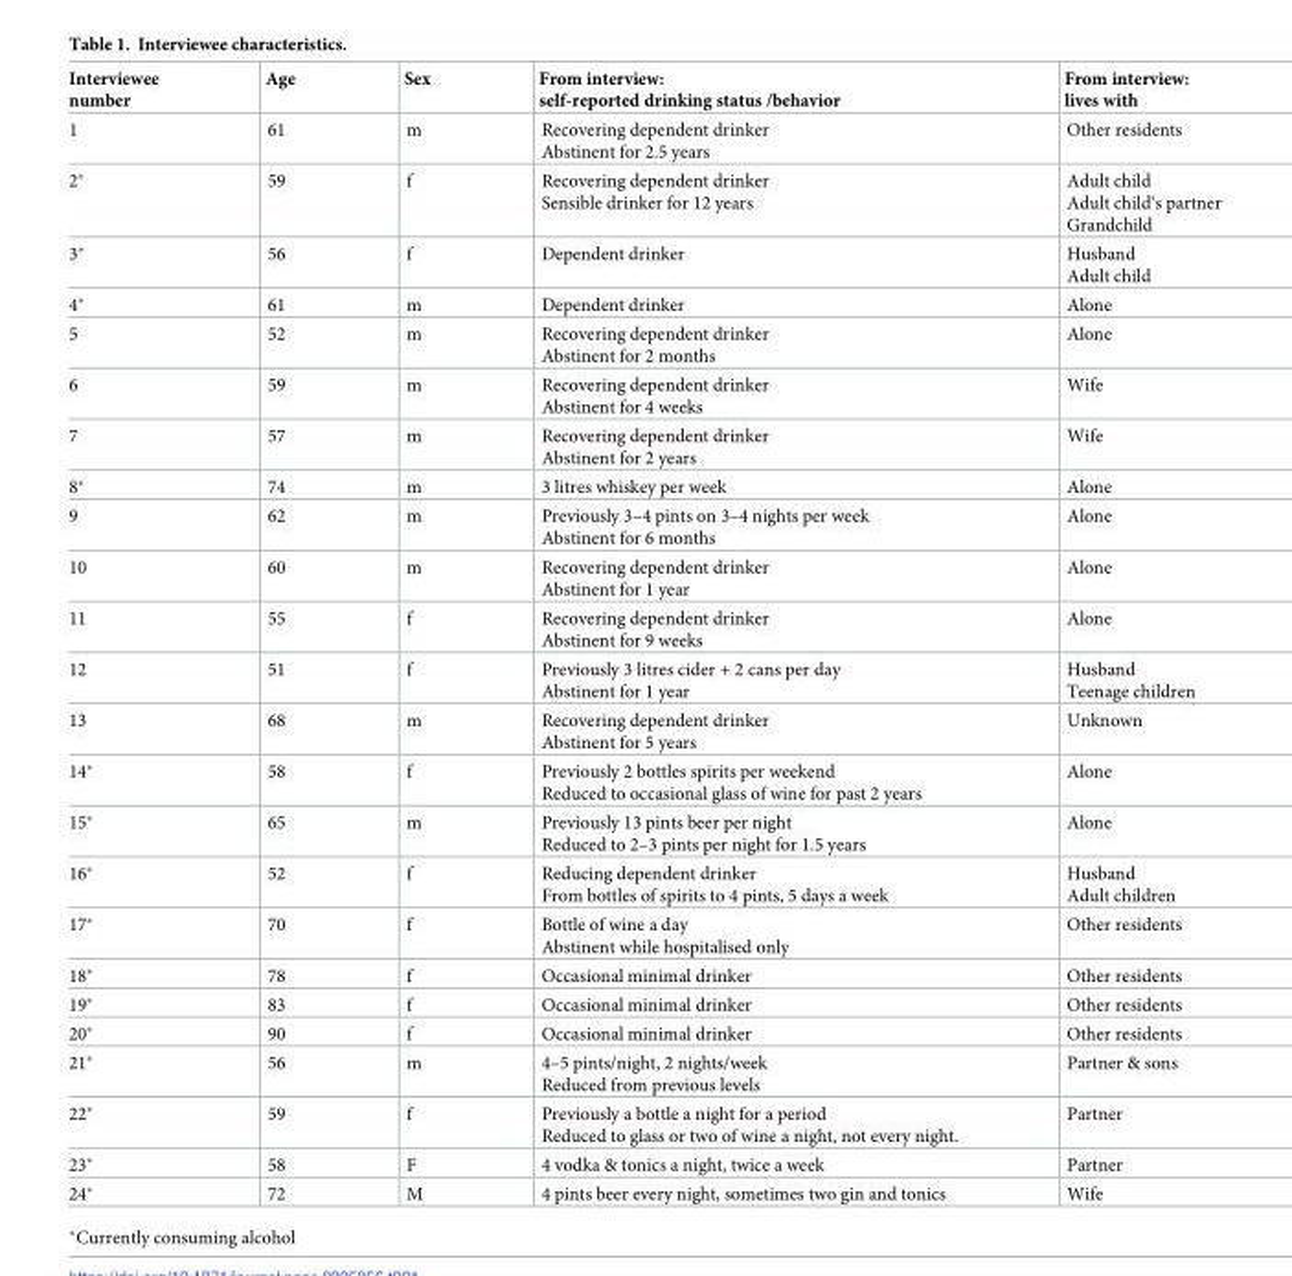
<table><thead><tr><td>Interviewee number</td><td>Age</td><td>Sex</td><td>From interview: self-reported drinking status /behavior</td><td>From interview: lives with</td></tr></thead><tbody><tr><td>1</td><td>61</td><td>m</td><td>Recovering dependent drinker Abstinent for 2.5 years</td><td>Other residents</td></tr><tr><td>2*</td><td>59</td><td>f</td><td>Recovering dependent drinker Sensible drinker for 12 years</td><td>Adult child Adult child‘s partner Grandchild</td></tr><tr><td>3*</td><td>56</td><td>f</td><td>Dependent drinker</td><td>Husband Adult child</td></tr><tr><td>4*</td><td>61</td><td>m</td><td>Dependent drinker</td><td>Alone</td></tr><tr><td>5</td><td>52</td><td>m</td><td>Recovering dependent drinker Abstinent for 2 months</td><td>Alone</td></tr><tr><td>6</td><td>59</td><td>m</td><td>Recovering dependent drinker Abstinent for 4 weeks</td><td>Wife</td></tr><tr><td>7</td><td>57</td><td>m</td><td>Recovering dependent drinker Abstinent for 2 years</td><td>Wife</td></tr><tr><td>8*</td><td>74</td><td>m</td><td>3 litres whiskey per week</td><td>Alone</td></tr><tr><td>9</td><td>62</td><td>m</td><td>Previously 3–4 pints on 3–4 nights per week Abstinent for 6 months</td><td>Alone</td></tr><tr><td>10</td><td>60</td><td>m</td><td>Recovering dependent drinker Abstinent for 1 year</td><td>Alone</td></tr><tr><td>11</td><td>55</td><td>f</td><td>Recovering dependent drinker Abstinent for 9 weeks</td><td>Alone</td></tr><tr><td>12</td><td>51</td><td>f</td><td>Previously 3 litres cider + 2 cans per day Abstinent for 1 year</td><td>Husband Teenage children</td></tr><tr><td>13</td><td>68</td><td>m</td><td>Recovering dependent drinker Abstinent for 5 years</td><td>Unknown</td></tr><tr><td>14*</td><td>58</td><td>f</td><td>Previously 2 bottles spirits per weekend Reduced to occasional glass of wine for past 2 years</td><td>Alone</td></tr><tr><td>15*</td><td>65</td><td>m</td><td>Previously 13 pints beer per night Reduced to 2–3 pints per night for 1.5 years</td><td>Alone</td></tr><tr><td>16*</td><td>52</td><td>f</td><td>Reducing dependent drinker From bottles of spirits to 4 pints, 5 days a week</td><td>Husband Adult children</td></tr><tr><td>17*</td><td>70</td><td>f</td><td>Bottle of wine a day Abstinent while hospitalised only</td><td>Other residents</td></tr><tr><td>18*</td><td>78</td><td>f</td><td>Occasional minimal drinker</td><td>Other residents</td></tr><tr><td>19*</td><td>83</td><td>f</td><td>Occasional minimal drinker</td><td>Other residents</td></tr><tr><td>20*</td><td>90</td><td>f</td><td>Occasional minimal drinker</td><td>Other residents</td></tr><tr><td>21*</td><td>56</td><td>m</td><td>4–5 pints/night, 2 nights/week Reduced from previous levels</td><td>Partner &amp; sons</td></tr><tr><td>22*</td><td>59</td><td>f</td><td>Previously a bottle a night for a period Reduced to glass or two of wine a night, not every night.</td><td>Partner</td></tr><tr><td>23*</td><td>58</td><td>F</td><td>4 vodka &amp; tonics a night, twice a week</td><td>Partner</td></tr><tr><td>24*</td><td>72</td><td>M</td><td>4 pints beer every night, sometimes two gin and tonics</td><td>Wife</td></tr></tbody></table>